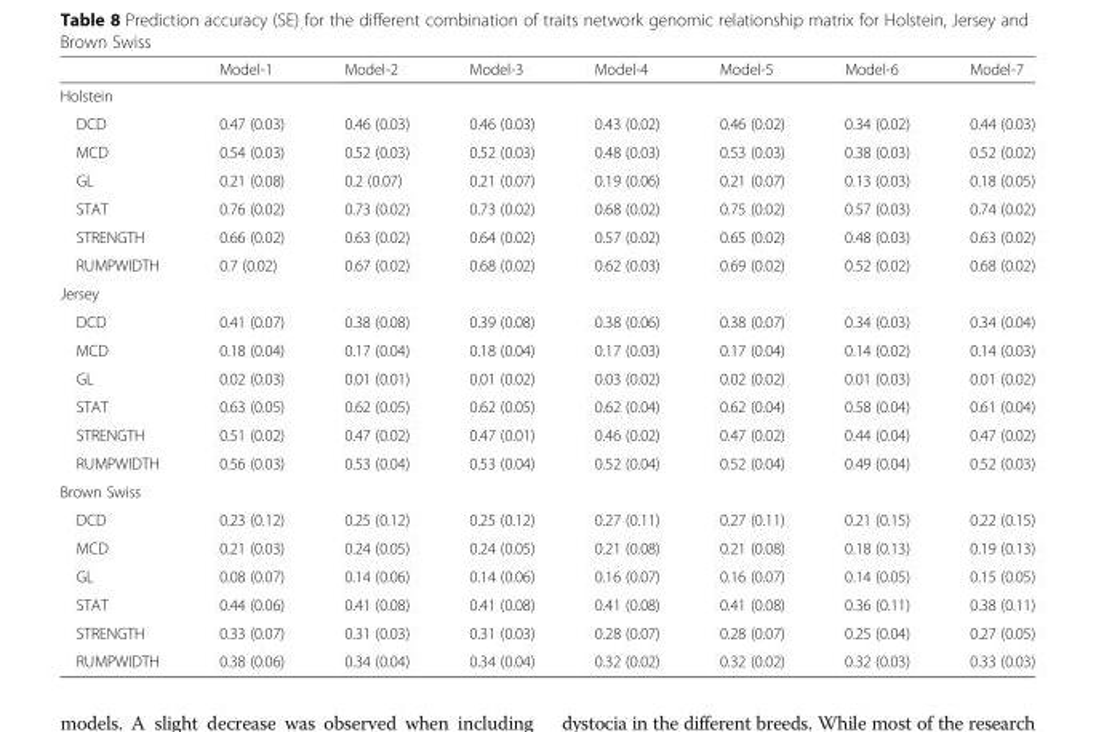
<table><thead><tr><td></td><td>Model-1</td><td>Model-2</td><td>Model-3</td><td>Model-4</td><td>Model-5</td><td>Model-6</td><td>Model-7</td></tr></thead><tbody><tr><td colspan="8">Holstein</td></tr><tr><td>DCD</td><td>0.47 (0.03)</td><td>0.46 (0.03)</td><td>0.46 (0.03)</td><td>0.43 (0.02)</td><td>0.46 (0.02)</td><td>0.34 (0.02)</td><td>0.44 (0.03)</td></tr><tr><td>MCD</td><td>0.54 (0.03)</td><td>0.52 (0.03)</td><td>0.52 (0.03)</td><td>0.48 (0.03)</td><td>0.53 (0.03)</td><td>0.38 (0.03)</td><td>0.52 (0.02)</td></tr><tr><td>GL</td><td>0.21 (0.08)</td><td>0.2 (0.07)</td><td>0.21 (0.07)</td><td>0.19 (0.06)</td><td>0.21 (0.07)</td><td>0.13 (0.03)</td><td>0.18 (0.05)</td></tr><tr><td>STAT</td><td>0.76 (0.02)</td><td>0.73 (0.02)</td><td>0.73 (0.02)</td><td>0.68 (0.02)</td><td>0.75 (0.02)</td><td>0.57 (0.03)</td><td>0.74 (0.02)</td></tr><tr><td>STRENGTH</td><td>0.66 (0.02)</td><td>0.63 (0.02)</td><td>0.64 (0.02)</td><td>0.57 (0.02)</td><td>0.65 (0.02)</td><td>0.48 (0.03)</td><td>0.63 (0.02)</td></tr><tr><td>RUMPWIDTH</td><td>0.7 (0.02)</td><td>0.67 (0.02)</td><td>0.68 (0.02)</td><td>0.62 (0.03)</td><td>0.69 (0.02)</td><td>0.52 (0.02)</td><td>0.68 (0.02)</td></tr><tr><td colspan="8">Jersey</td></tr><tr><td>DCD</td><td>0.41 (0.07)</td><td>0.38 (0.08)</td><td>0.39 (0.08)</td><td>0.38 (0.06)</td><td>0.38 (0.07)</td><td>0.34 (0.03)</td><td>0.34 (0.04)</td></tr><tr><td>MCD</td><td>0.18 (0.04)</td><td>0.17 (0.04)</td><td>0.18 (0.04)</td><td>0.17 (0.03)</td><td>0.17 (0.04)</td><td>0.14 (0.02)</td><td>0.14 (0.03)</td></tr><tr><td>GL</td><td>0.02 (0.03)</td><td>0.01 (0.01)</td><td>0.01 (0.02)</td><td>0.03 (0.02)</td><td>0.02 (0.02)</td><td>0.01 (0.03)</td><td>0.01 (0.02)</td></tr><tr><td>STAT</td><td>0.63 (0.05)</td><td>0.62 (0.05)</td><td>0.62 (0.05)</td><td>0.62 (0.04)</td><td>0.62 (0.04)</td><td>0.58 (0.04)</td><td>0.61 (0.04)</td></tr><tr><td>STRENGTH</td><td>0.51 (0.02)</td><td>0.47 (0.02)</td><td>0.47 (0.01)</td><td>0.46 (0.02)</td><td>0.47 (0.02)</td><td>0.44 (0.04)</td><td>0.47 (0.02)</td></tr><tr><td>RUMPWIDTH</td><td>0.56 (0.03)</td><td>0.53 (0.04)</td><td>0.53 (0.04)</td><td>0.52 (0.04)</td><td>0.52 (0.04)</td><td>0.49 (0.04)</td><td>0.52 (0.03)</td></tr><tr><td colspan="8">Brown Swiss</td></tr><tr><td>DCD</td><td>0.23 (0.12)</td><td>0.25 (0.12)</td><td>0.25 (0.12)</td><td>0.27 (0.11)</td><td>0.27 (0.11)</td><td>0.21 (0.15)</td><td>0.22 (0.15)</td></tr><tr><td>MCD</td><td>0.21 (0.03)</td><td>0.24 (0.05)</td><td>0.24 (0.05)</td><td>0.21 (0.08)</td><td>0.21 (0.08)</td><td>0.18 (0.13)</td><td>0.19 (0.13)</td></tr><tr><td>GL</td><td>0.08 (0.07)</td><td>0.14 (0.06)</td><td>0.14 (0.06)</td><td>0.16 (0.07)</td><td>0.16 (0.07)</td><td>0.14 (0.05)</td><td>0.15 (0.05)</td></tr><tr><td>STAT</td><td>0.44 (0.06)</td><td>0.41 (0.08)</td><td>0.41 (0.08)</td><td>0.41 (0.08)</td><td>0.41 (0.08)</td><td>0.36 (0.11)</td><td>0.38 (0.11)</td></tr><tr><td>STRENGTH</td><td>0.33 (0.07)</td><td>0.31 (0.03)</td><td>0.31 (0.03)</td><td>0.28 (0.07)</td><td>0.28 (0.07)</td><td>0.25 (0.04)</td><td>0.27 (0.05)</td></tr><tr><td>RUMPWIDTH</td><td>0.38 (0.06)</td><td>0.34 (0.04)</td><td>0.34 (0.04)</td><td>0.32 (0.02)</td><td>0.32 (0.02)</td><td>0.32 (0.03)</td><td>0.33 (0.03)</td></tr></tbody></table>